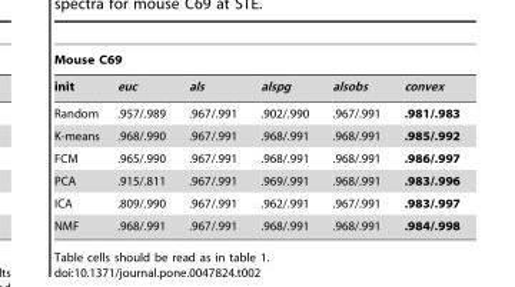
<table><thead><tr><td colspan="6">Mouse C69</td></tr><tr><td>init</td><td>euc</td><td>als</td><td>alspg</td><td>alsobs</td><td>convex</td></tr></thead><tbody><tr><td>Random</td><td>.957/.989</td><td>.967/.991</td><td>.902/.990</td><td>.967/.991</td><td>.981/.983</td></tr><tr><td>K-means</td><td>.968/.990</td><td>.967/.991</td><td>.968/.991</td><td>.968/.991</td><td>.985/.992</td></tr><tr><td>FCM</td><td>.965/.990</td><td>.967/.991</td><td>.968/.991</td><td>.968/.991</td><td>.986/.997</td></tr><tr><td>PCA</td><td>.915/.811</td><td>.967/.991</td><td>.969/.991</td><td>.968/.991</td><td>.983/.996</td></tr><tr><td>ICA</td><td>.809/.990</td><td>.967/.991</td><td>.962/.991</td><td>.967/.991</td><td>.983/.997</td></tr><tr><td>NMF</td><td>.968/.991</td><td>.967/.991</td><td>.968/.991</td><td>.968/.991</td><td>.984/.998</td></tr></tbody></table>